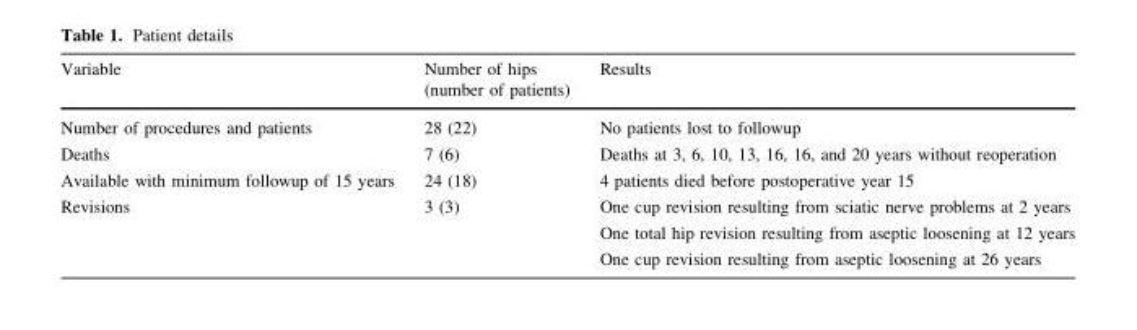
<table><thead><tr><td>Variable</td><td>Number of hips (number of patients)</td><td>Results</td></tr></thead><tbody><tr><td>Number of procedures and patients</td><td>28 (22)</td><td>No patients lost to followup</td></tr><tr><td>Deaths</td><td>7 (6)</td><td>Deaths at 3, 6, 10, 13, 16, 16, and 20 years without reoperation</td></tr><tr><td>Available with minimum followup of 15 years</td><td>24 (18)</td><td>4 patients died before postoperative year 15</td></tr><tr><td>Revisions</td><td>3 (3)</td><td>One cup revision resulting from sciatic nerve problems at 2 years One total hip revision resulting from aseptic loosening at 12 years One cup revision resulting from aseptic loosening at 26 years</td></tr></tbody></table>